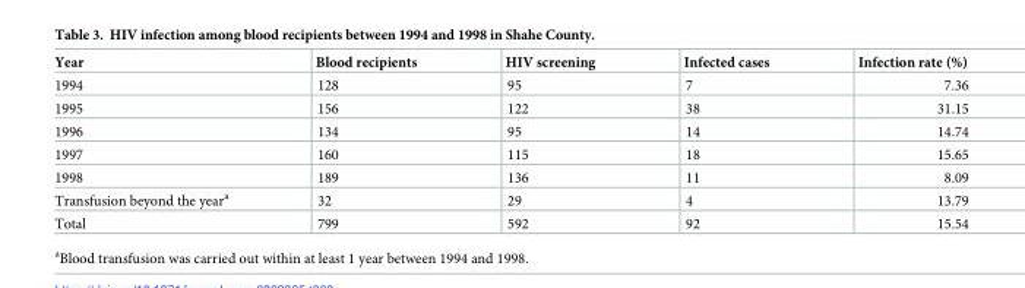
<table><thead><tr><td>Year</td><td>Blood recipients</td><td>HIV screening</td><td>Infected cases</td><td>Infection rate (%)</td></tr></thead><tbody><tr><td>1994</td><td>128</td><td>95</td><td>7</td><td>7.36</td></tr><tr><td>1995</td><td>156</td><td>122</td><td>38</td><td>31.15</td></tr><tr><td>1996</td><td>134</td><td>95</td><td>14</td><td>14.74</td></tr><tr><td>1997</td><td>160</td><td>115</td><td>18</td><td>15.65</td></tr><tr><td>1998</td><td>189</td><td>136</td><td>11</td><td>8.09</td></tr><tr><td>Transfusion beyond the year<sup>a</sup></td><td>32</td><td>29</td><td>4</td><td>13.79</td></tr><tr><td>Total</td><td>799</td><td>592</td><td>92</td><td>15.54</td></tr></tbody></table>